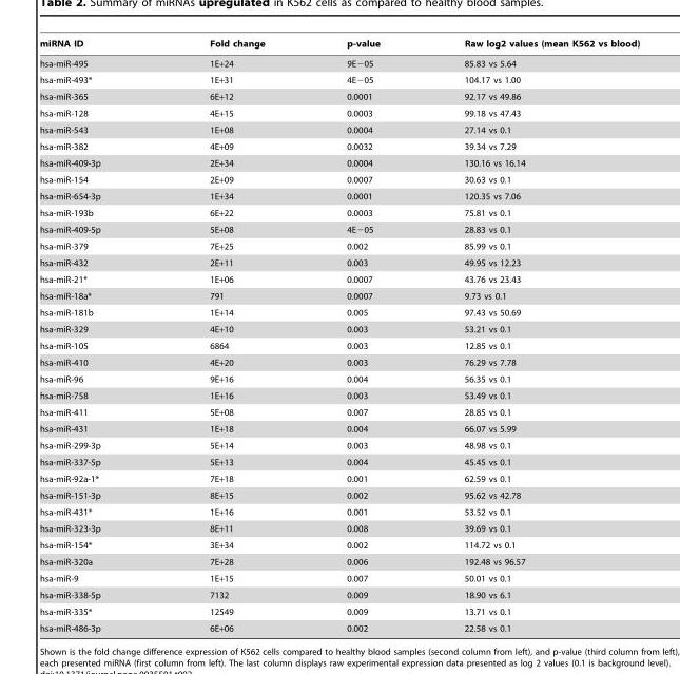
<table><thead><tr><td>miRNA ID</td><td>Fold change</td><td>p-value</td><td>Raw log2 values (mean K562 vs blood)</td></tr></thead><tbody><tr><td>hsa-miR-495</td><td>1E+24</td><td>9E−05</td><td>85.83 vs 5.64</td></tr><tr><td>hsa-miR-493*</td><td>1E+31</td><td>4E−05</td><td>104.17 vs 1.00</td></tr><tr><td>hsa-miR-365</td><td>6E+12</td><td>0.0001</td><td>92.17 vs 49.86</td></tr><tr><td>hsa-miR-128</td><td>4E+15</td><td>0.0003</td><td>99.18 vs 47.43</td></tr><tr><td>hsa-miR-543</td><td>1E+08</td><td>0.0004</td><td>27.14 vs 0.1</td></tr><tr><td>hsa-miR-382</td><td>4E+09</td><td>0.0032</td><td>39.34 vs 7.29</td></tr><tr><td>hsa-miR-409-3p</td><td>2E+34</td><td>0.0004</td><td>130.16 vs 16.14</td></tr><tr><td>hsa-miR-154</td><td>2E+09</td><td>0.0007</td><td>30.63 vs 0.1</td></tr><tr><td>hsa-miR-654-3p</td><td>1E+34</td><td>0.0001</td><td>120.35 vs 7.06</td></tr><tr><td>hsa-miR-193b</td><td>6E+22</td><td>0.0003</td><td>75.81 vs 0.1</td></tr><tr><td>hsa-miR-409-5p</td><td>5E+08</td><td>4E−05</td><td>28.83 vs 0.1</td></tr><tr><td>hsa-miR-379</td><td>7E+25</td><td>0.002</td><td>85.99 vs 0.1</td></tr><tr><td>hsa-miR-432</td><td>2E+11</td><td>0.003</td><td>49.95 vs 12.23</td></tr><tr><td>hsa-miR-21*</td><td>1E+06</td><td>0.0007</td><td>43.76 vs 23.43</td></tr><tr><td>hsa-miR-18a*</td><td>791</td><td>0.0007</td><td>9.73 vs 0.1</td></tr><tr><td>hsa-miR-181b</td><td>1E+14</td><td>0.005</td><td>97.43 vs 50.69</td></tr><tr><td>hsa-miR-329</td><td>4E+10</td><td>0.003</td><td>53.21 vs 0.1</td></tr><tr><td>hsa-miR-105</td><td>6864</td><td>0.003</td><td>12.85 vs 0.1</td></tr><tr><td>hsa-miR-410</td><td>4E+20</td><td>0.003</td><td>76.29 vs 7.78</td></tr><tr><td>hsa-miR-96</td><td>9E+16</td><td>0.004</td><td>56.35 vs 0.1</td></tr><tr><td>hsa-miR-758</td><td>1E+16</td><td>0.003</td><td>53.49 vs 0.1</td></tr><tr><td>hsa-miR-411</td><td>5E+08</td><td>0.007</td><td>28.85 vs 0.1</td></tr><tr><td>hsa-miR-431</td><td>1E+18</td><td>0.004</td><td>66.07 vs 5.99</td></tr><tr><td>hsa-miR-299-3p</td><td>5E+14</td><td>0.003</td><td>48.98 vs 0.1</td></tr><tr><td>hsa-miR-337-5p</td><td>5E+13</td><td>0.004</td><td>45.45 vs 0.1</td></tr><tr><td>hsa-miR-92a-1*</td><td>7E+18</td><td>0.001</td><td>62.59 vs 0.1</td></tr><tr><td>hsa-miR-151-3p</td><td>8E+15</td><td>0.002</td><td>95.62 vs 42.78</td></tr><tr><td>hsa-miR-431*</td><td>1E+16</td><td>0.001</td><td>53.52 vs 0.1</td></tr><tr><td>hsa-miR-323-3p</td><td>8E+11</td><td>0.008</td><td>39.69 vs 0.1</td></tr><tr><td>hsa-miR-154*</td><td>3E+34</td><td>0.002</td><td>114.72 vs 0.1</td></tr><tr><td>hsa-miR-320a</td><td>7E+28</td><td>0.006</td><td>192.48 vs 96.57</td></tr><tr><td>hsa-miR-9</td><td>1E+15</td><td>0.007</td><td>50.01 vs 0.1</td></tr><tr><td>hsa-miR-338-5p</td><td>7132</td><td>0.009</td><td>18.90 vs 6.1</td></tr><tr><td>hsa-miR-335*</td><td>12549</td><td>0.009</td><td>13.71 vs 0.1</td></tr><tr><td>hsa-miR-486-3p</td><td>6E+06</td><td>0.002</td><td>22.58 vs 0.1</td></tr></tbody></table>